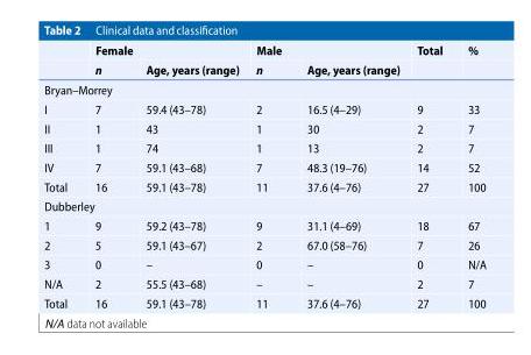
<table><thead><tr><td rowspan="2"></td><td colspan="2">Female</td><td colspan="2">Male</td><td rowspan="2">Total</td><td rowspan="2">%</td></tr><tr><td>n</td><td>Age, years (range)</td><td>n</td><td>Age, years (range)</td></tr></thead><tbody><tr><td colspan="7">Bryan–Morrey</td></tr><tr><td>I</td><td>7</td><td>59.4 (43–78)</td><td>2</td><td>16.5 (4–29)</td><td>9</td><td>33</td></tr><tr><td>II</td><td>1</td><td>43</td><td>1</td><td>30</td><td>2</td><td>7</td></tr><tr><td>III</td><td>1</td><td>74</td><td>1</td><td>13</td><td>2</td><td>7</td></tr><tr><td>IV</td><td>7</td><td>59.1 (43–68)</td><td>7</td><td>48.3 (19–76)</td><td>14</td><td>52</td></tr><tr><td>Total</td><td>16</td><td>59.1 (43–78)</td><td>11</td><td>37.6 (4–76)</td><td>27</td><td>100</td></tr><tr><td colspan="7">Dubberley</td></tr><tr><td>1</td><td>9</td><td>59.2 (43–78)</td><td>9</td><td>31.1 (4–69)</td><td>18</td><td>67</td></tr><tr><td>2</td><td>5</td><td>59.1 (43–67)</td><td>2</td><td>67.0 (58–76)</td><td>7</td><td>26</td></tr><tr><td>3</td><td>0</td><td>–</td><td>0</td><td>–</td><td>0</td><td>N/A</td></tr><tr><td>N/A</td><td>2</td><td>55.5 (43–68)</td><td>–</td><td>–</td><td>2</td><td>7</td></tr><tr><td>Total</td><td>16</td><td>59.1 (43–78)</td><td>11</td><td>37.6 (4–76)</td><td>27</td><td>100</td></tr></tbody></table>